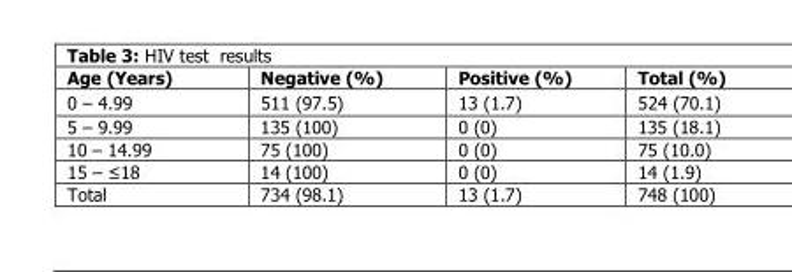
<table><thead><tr><td>Age (Years)</td><td>Negative (%)</td><td>Positive (%)</td><td>Total (%)</td></tr></thead><tbody><tr><td>0 – 4.99</td><td>511 (97.5)</td><td>13 (1.7)</td><td>524 (70.1)</td></tr><tr><td>5 – 9.99</td><td>135 (100)</td><td>0 (0)</td><td>135 (18.1)</td></tr><tr><td>10 – 14.99</td><td>75 (100)</td><td>0 (0)</td><td>75 (10.0)</td></tr><tr><td>15 – ≤18</td><td>14 (100)</td><td>0 (0)</td><td>14 (1.9)</td></tr><tr><td>Total</td><td>734 (98.1)</td><td>13 (1.7)</td><td>748 (100)</td></tr></tbody></table>